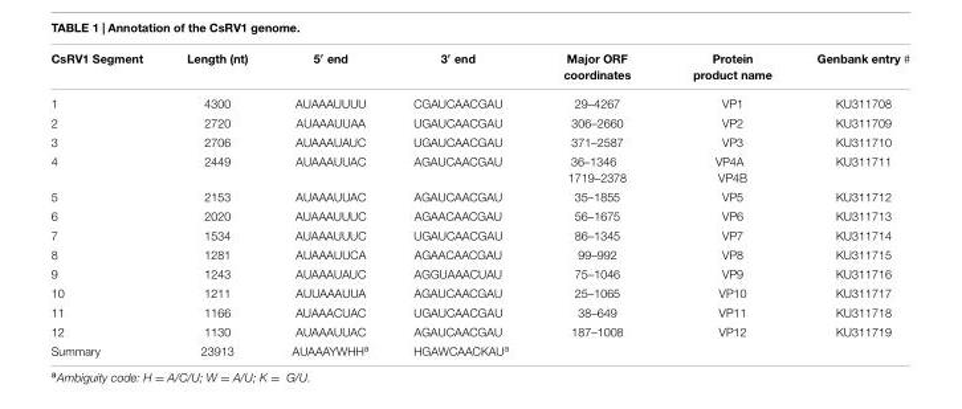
<table><thead><tr><td>CsRV1 Segment</td><td>Length (nt)</td><td>5′ end</td><td>3′ end</td><td>Major ORF coordinates</td><td>Protein product name</td><td>Genbank entry #</td></tr></thead><tbody><tr><td>1</td><td>4300</td><td>AUAAAUUUU</td><td>CGAUCAACGAU</td><td>29–4267</td><td>VP1</td><td>KU311708</td></tr><tr><td>2</td><td>2720</td><td>AUAAAUUAA</td><td>UGAUCAACGAU</td><td>306–2660</td><td>VP2</td><td>KU311709</td></tr><tr><td>3</td><td>2706</td><td>AUAAAUAUC</td><td>UGAUCAACGAU</td><td>371–2587</td><td>VP3</td><td>KU311710</td></tr><tr><td>4</td><td>2449</td><td>AUAAAUUAC</td><td>AGAUCAACGAU</td><td>36–1346 1719–2378</td><td>VP4A VP4B</td><td>KU311711</td></tr><tr><td>5</td><td>2153</td><td>AUAAAUUAC</td><td>AGAUCAACGAU</td><td>35–1855</td><td>VP5</td><td>KU311712</td></tr><tr><td>6</td><td>2020</td><td>AUAAAUUUC</td><td>AGAACAACGAU</td><td>56–1675</td><td>VP6</td><td>KU311713</td></tr><tr><td>7</td><td>1534</td><td>AUAAAUUUC</td><td>UGAUCAACGAU</td><td>86–1345</td><td>VP7</td><td>KU311714</td></tr><tr><td>8</td><td>1281</td><td>AUAAAUUCA</td><td>AGAACAACGAU</td><td>99–992</td><td>VP8</td><td>KU311715</td></tr><tr><td>9</td><td>1243</td><td>AUAAAUAUC</td><td>AGGUAAACUAU</td><td>75–1046</td><td>VP9</td><td>KU311716</td></tr><tr><td>10</td><td>1211</td><td>AUUAAAUUA</td><td>AGAUCAACGAU</td><td>25–1065</td><td>VP10</td><td>KU311717</td></tr><tr><td>11</td><td>1166</td><td>AUAAACUAC</td><td>UGAUCAACGAU</td><td>38–649</td><td>VP11</td><td>KU311718</td></tr><tr><td>12</td><td>1130</td><td>AUAAAUUAC</td><td>AGAUCAACGAU</td><td>187–1008</td><td>VP12</td><td>KU311719</td></tr><tr><td>Summary</td><td>23913</td><td>AUAAAYWHH<sup>a</sup></td><td colspan="4">HGAWCAACKAU<sup>a</sup></td></tr></tbody></table>